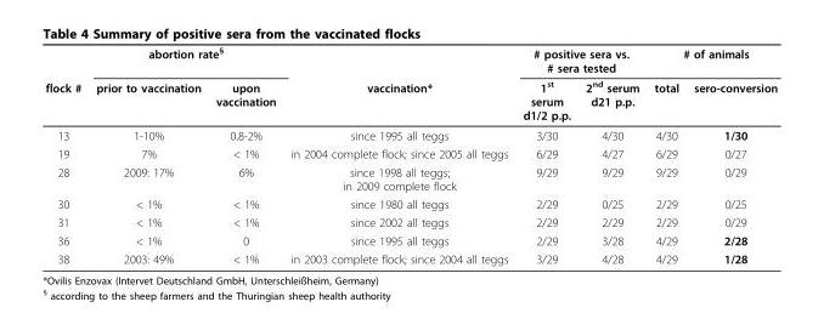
<table><thead><tr><td rowspan="2">flock #</td><td colspan="2">abortion rate<sup>§</sup></td><td rowspan="2">vaccination*</td><td colspan="2"># positive sera vs. # sera tested</td><td colspan="2"># of animals</td></tr><tr><td>prior to vaccination</td><td>upon vaccination</td><td>1<sup>st</sup> serum d1/2 p.p.</td><td>2<sup>nd</sup> serum d21 p.p.</td><td>total</td><td>sero-conversion</td></tr></thead><tbody><tr><td>13</td><td>1-10%</td><td>0.8-2%</td><td>since 1995 all teggs</td><td>3/30</td><td>4/30</td><td>4/30</td><td>1/30</td></tr><tr><td>19</td><td>7%</td><td>&lt; 1%</td><td>in 2004 complete flock; since 2005 all teggs</td><td>6/29</td><td>4/27</td><td>6/29</td><td>0/27</td></tr><tr><td>28</td><td>2009: 17%</td><td>6%</td><td>since 1998 all teggs; in 2009 complete flock</td><td>9/29</td><td>9/29</td><td>9/29</td><td>0/29</td></tr><tr><td>30</td><td>&lt; 1%</td><td>&lt; 1%</td><td>since 1980 all teggs</td><td>2/29</td><td>0/25</td><td>2/29</td><td>0/25</td></tr><tr><td>31</td><td>&lt; 1%</td><td>&lt; 1%</td><td>since 2002 all teggs</td><td>2/29</td><td>2/29</td><td>2/29</td><td>0/29</td></tr><tr><td>36</td><td>&lt; 1%</td><td>0</td><td>since 1995 all teggs</td><td>2/29</td><td>3/28</td><td>4/29</td><td>2/28</td></tr><tr><td>38</td><td>2003: 49%</td><td>&lt; 1%</td><td>in 2003 complete flock; since 2004 all teggs</td><td>3/29</td><td>4/28</td><td>4/29</td><td>1/28</td></tr></tbody></table>